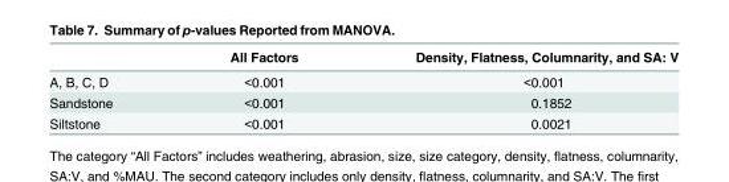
<table><thead><tr><td></td><td>All Factors</td><td>Density, Flatness, Columnarity, and SA: V</td></tr></thead><tbody><tr><td>A, B, C, D</td><td>&lt;0.001</td><td>&lt;0.001</td></tr><tr><td>Sandstone</td><td>&lt;0.001</td><td>0.1852</td></tr><tr><td>Siltstone</td><td>&lt;0.001</td><td>0.0021</td></tr></tbody></table>